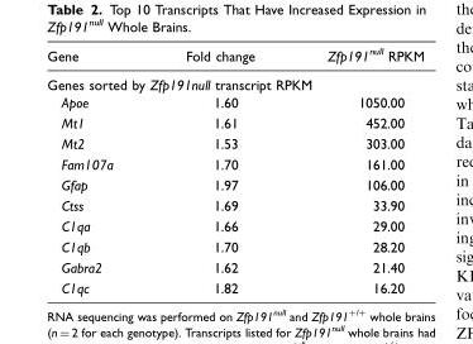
<table><thead><tr><td>Gene</td><td>Fold change</td><td>Zfp191<sup>null</sup> RPKM</td></tr></thead><tbody><tr><td colspan="3">Genes sorted by Zfp191null transcript RPKM</td></tr><tr><td>Apoe</td><td>1.60</td><td>1050.00</td></tr><tr><td>Mt1</td><td>1.61</td><td>452.00</td></tr><tr><td>Mt2</td><td>1.53</td><td>303.00</td></tr><tr><td>Fam107a</td><td>1.70</td><td>161.00</td></tr><tr><td>Gfap</td><td>1.97</td><td>106.00</td></tr><tr><td>Ctss</td><td>1.69</td><td>33.90</td></tr><tr><td>C1qa</td><td>1.66</td><td>29.00</td></tr><tr><td>C1qb</td><td>1.70</td><td>28.20</td></tr><tr><td>Gabra2</td><td>1.62</td><td>21.40</td></tr><tr><td>C1qc</td><td>1.82</td><td>16.20</td></tr></tbody></table>